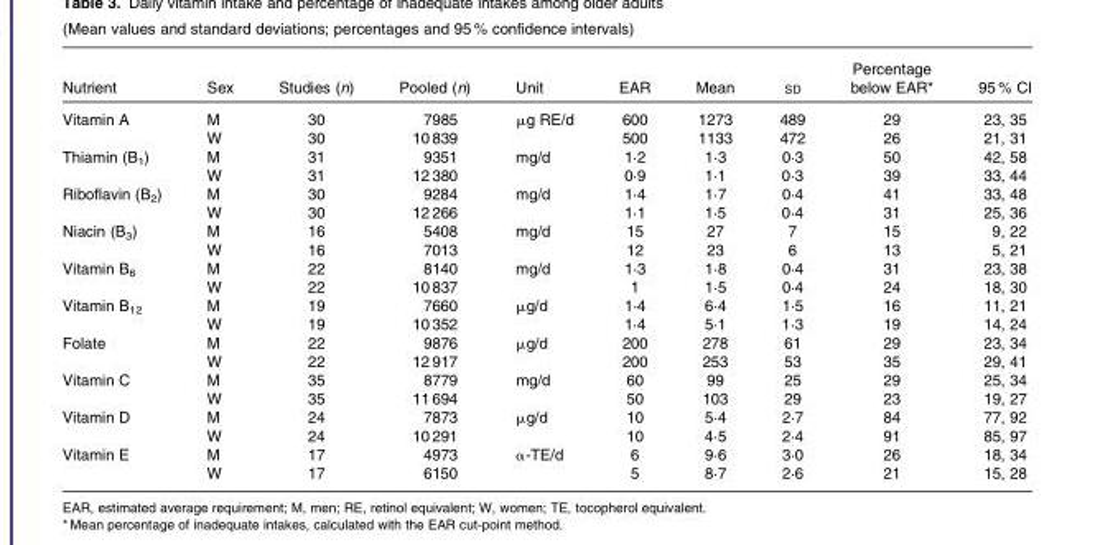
<table><thead><tr><td>Nutrient</td><td>Sex</td><td>Studies (n)</td><td>Pooled (n)</td><td>Unit</td><td>EAR</td><td>Mean</td><td>SD</td><td>Percentage below EAR*</td><td>95 % CI</td></tr></thead><tbody><tr><td rowspan="2">Vitamin A</td><td>M</td><td>30</td><td>7985</td><td>μg RE/d</td><td>600</td><td>1273</td><td>489</td><td>29</td><td>23, 35</td></tr><tr><td>W</td><td>30</td><td>10 839</td><td></td><td>500</td><td>1133</td><td>472</td><td>26</td><td>21, 31</td></tr><tr><td rowspan="2">Thiamin (B<sub>1</sub>)</td><td>M</td><td>31</td><td>9351</td><td>mg/d</td><td>1·2</td><td>1·3</td><td>0·3</td><td>50</td><td>42, 58</td></tr><tr><td>W</td><td>31</td><td>12 380</td><td></td><td>0·9</td><td>1·1</td><td>0·3</td><td>39</td><td>33, 44</td></tr><tr><td rowspan="2">Riboflavin (B<sub>2</sub>)</td><td>M</td><td>30</td><td>9284</td><td>mg/d</td><td>1·4</td><td>1·7</td><td>0·4</td><td>41</td><td>33, 48</td></tr><tr><td>W</td><td>30</td><td>12 266</td><td></td><td>1·1</td><td>1·5</td><td>0·4</td><td>31</td><td>25, 36</td></tr><tr><td rowspan="2">Niacin (B<sub>3</sub>)</td><td>M</td><td>16</td><td>5408</td><td>mg/d</td><td>15</td><td>27</td><td>7</td><td>15</td><td>9, 22</td></tr><tr><td>W</td><td>16</td><td>7013</td><td></td><td>12</td><td>23</td><td>6</td><td>13</td><td>5, 21</td></tr><tr><td rowspan="2">Vitamin B<sub>6</sub></td><td>M</td><td>22</td><td>8140</td><td>mg/d</td><td>1·3</td><td>1·8</td><td>0·4</td><td>31</td><td>23, 38</td></tr><tr><td>W</td><td>22</td><td>10 837</td><td></td><td>1</td><td>1·5</td><td>0·4</td><td>24</td><td>18, 30</td></tr><tr><td rowspan="2">Vitamin B<sub>12</sub></td><td>M</td><td>19</td><td>7660</td><td>μg/d</td><td>1·4</td><td>6·4</td><td>1·5</td><td>16</td><td>11, 21</td></tr><tr><td>W</td><td>19</td><td>10 352</td><td></td><td>1·4</td><td>5·1</td><td>1·3</td><td>19</td><td>14, 24</td></tr><tr><td rowspan="2">Folate</td><td>M</td><td>22</td><td>9876</td><td>μg/d</td><td>200</td><td>278</td><td>61</td><td>29</td><td>23, 34</td></tr><tr><td>W</td><td>22</td><td>12 917</td><td></td><td>200</td><td>253</td><td>53</td><td>35</td><td>29, 41</td></tr><tr><td rowspan="2">Vitamin C</td><td>M</td><td>35</td><td>8779</td><td>mg/d</td><td>60</td><td>99</td><td>25</td><td>29</td><td>25, 34</td></tr><tr><td>W</td><td>35</td><td>11 694</td><td></td><td>50</td><td>103</td><td>29</td><td>23</td><td>19, 27</td></tr><tr><td rowspan="2">Vitamin D</td><td>M</td><td>24</td><td>7873</td><td>μg/d</td><td>10</td><td>5·4</td><td>2·7</td><td>84</td><td>77, 92</td></tr><tr><td>W</td><td>24</td><td>10 291</td><td></td><td>10</td><td>4·5</td><td>2·4</td><td>91</td><td>85, 97</td></tr><tr><td rowspan="2">Vitamin E</td><td>M</td><td>17</td><td>4973</td><td>α-TE/d</td><td>6</td><td>9·6</td><td>3·0</td><td>26</td><td>18, 34</td></tr><tr><td>W</td><td>17</td><td>6150</td><td></td><td>5</td><td>8·7</td><td>2·6</td><td>21</td><td>15, 28</td></tr></tbody></table>